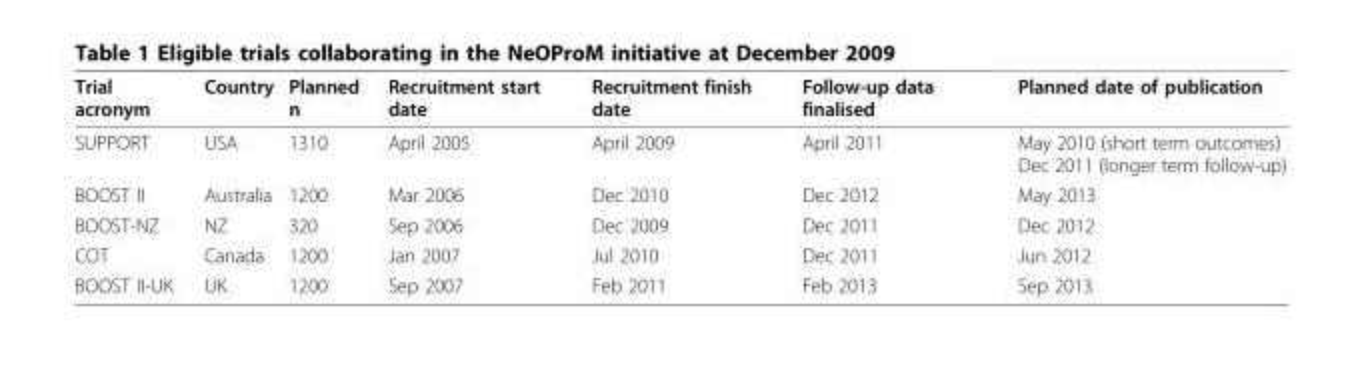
<table><thead><tr><td>Trial acronym</td><td>Country</td><td>Planned n</td><td>Recruitment start date</td><td>Recruitment finish date</td><td>Follow-up data finalised</td><td>Planned date of publication</td></tr></thead><tbody><tr><td>SUPPORT</td><td>USA</td><td>1310</td><td>April 2005</td><td>April 2009</td><td>April 2011</td><td>May 2010 (short term outcomes) Dec 2011 (longer term follow-up)</td></tr><tr><td>BOOST II</td><td>Australia</td><td>1200</td><td>Mar 2006</td><td>Dec 2010</td><td>Dec 2012</td><td>May 2013</td></tr><tr><td>BOOST-NZ</td><td>NZ</td><td>320</td><td>Sep 2006</td><td>Dec 2009</td><td>Dec 2011</td><td>Dec 2012</td></tr><tr><td>COT</td><td>Canada</td><td>1200</td><td>Jan 2007</td><td>Jul 2010</td><td>Dec 2011</td><td>Jun 2012</td></tr><tr><td>BOOST II-UK</td><td>UK</td><td>1200</td><td>Sep 2007</td><td>Feb 2011</td><td>Feb 2013</td><td>Sep 2013</td></tr></tbody></table>